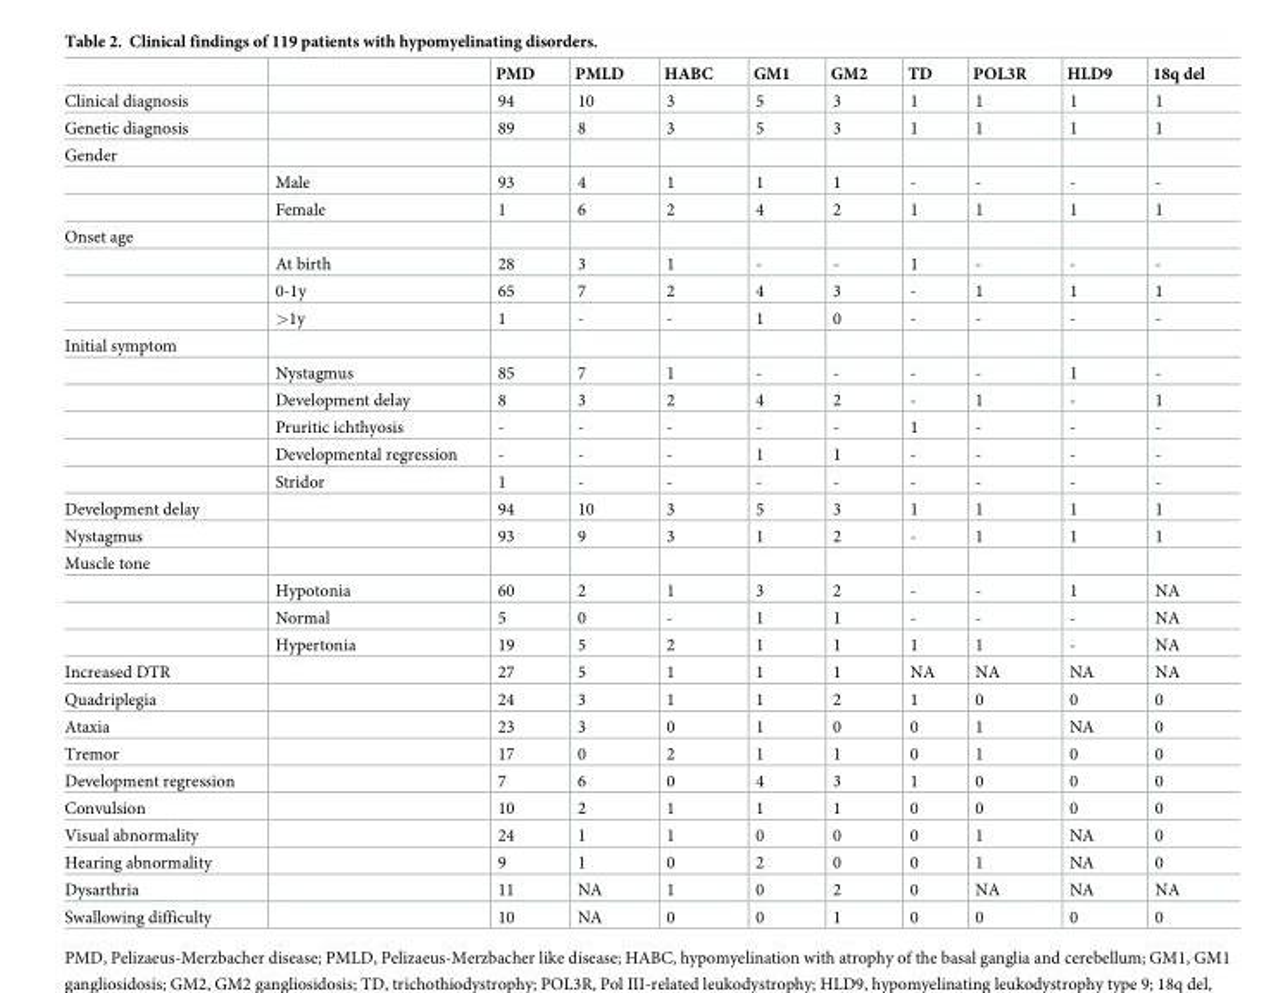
<table><thead><tr><td></td><td></td><td>PMD</td><td>PMLD</td><td>HABC</td><td>GM1</td><td>GM2</td><td>TD</td><td>POL3R</td><td>HLD9</td><td>18q del</td></tr></thead><tbody><tr><td>Clinical diagnosis</td><td></td><td>94</td><td>10</td><td>3</td><td>5</td><td>3</td><td>1</td><td>1</td><td>1</td><td>1</td></tr><tr><td>Genetic diagnosis</td><td></td><td>89</td><td>8</td><td>3</td><td>5</td><td>3</td><td>1</td><td>1</td><td>1</td><td>1</td></tr><tr><td colspan="11">Gender</td></tr><tr><td></td><td>Male</td><td>93</td><td>4</td><td>1</td><td>1</td><td>1</td><td>-</td><td>-</td><td>-</td><td>-</td></tr><tr><td></td><td>Female</td><td>1</td><td>6</td><td>2</td><td>4</td><td>2</td><td>1</td><td>1</td><td>1</td><td>1</td></tr><tr><td colspan="11">Onset age</td></tr><tr><td></td><td>At birth</td><td>28</td><td>3</td><td>1</td><td>-</td><td>-</td><td>1</td><td>-</td><td>-</td><td>-</td></tr><tr><td></td><td>0-1y</td><td>65</td><td>7</td><td>2</td><td>4</td><td>3</td><td>-</td><td>1</td><td>1</td><td>1</td></tr><tr><td></td><td>&gt;1y</td><td>1</td><td>-</td><td>-</td><td>1</td><td>0</td><td>-</td><td>-</td><td>-</td><td>-</td></tr><tr><td colspan="11">Initial symptom</td></tr><tr><td></td><td>Nystagmus</td><td>85</td><td>7</td><td>1</td><td>-</td><td>-</td><td>-</td><td>-</td><td>1</td><td>-</td></tr><tr><td></td><td>Development delay</td><td>8</td><td>3</td><td>2</td><td>4</td><td>2</td><td>-</td><td>1</td><td>-</td><td>1</td></tr><tr><td></td><td>Pruritic ichthyosis</td><td>-</td><td>-</td><td>-</td><td>-</td><td>-</td><td>1</td><td>-</td><td>-</td><td>-</td></tr><tr><td></td><td>Developmental regression</td><td>-</td><td>-</td><td>-</td><td>1</td><td>1</td><td>-</td><td>-</td><td>-</td><td>-</td></tr><tr><td></td><td>Stridor</td><td>1</td><td>-</td><td>-</td><td>-</td><td>-</td><td>-</td><td>-</td><td>-</td><td>-</td></tr><tr><td>Development delay</td><td></td><td>94</td><td>10</td><td>3</td><td>5</td><td>3</td><td>1</td><td>1</td><td>1</td><td>1</td></tr><tr><td>Nystagmus</td><td></td><td>93</td><td>9</td><td>3</td><td>1</td><td>2</td><td>-</td><td>1</td><td>1</td><td>1</td></tr><tr><td colspan="11">Muscle tone</td></tr><tr><td></td><td>Hypotonia</td><td>60</td><td>2</td><td>1</td><td>3</td><td>2</td><td>-</td><td>-</td><td>1</td><td>NA</td></tr><tr><td></td><td>Normal</td><td>5</td><td>0</td><td>-</td><td>1</td><td>1</td><td>-</td><td>-</td><td>-</td><td>NA</td></tr><tr><td></td><td>Hypertonia</td><td>19</td><td>5</td><td>2</td><td>1</td><td>1</td><td>1</td><td>1</td><td>-</td><td>NA</td></tr><tr><td>Increased DTR</td><td></td><td>27</td><td>5</td><td>1</td><td>1</td><td>1</td><td>NA</td><td>NA</td><td>NA</td><td>NA</td></tr><tr><td>Quadriplegia</td><td></td><td>24</td><td>3</td><td>1</td><td>1</td><td>2</td><td>1</td><td>0</td><td>0</td><td>0</td></tr><tr><td>Ataxia</td><td></td><td>23</td><td>3</td><td>0</td><td>1</td><td>0</td><td>0</td><td>1</td><td>NA</td><td>0</td></tr><tr><td>Tremor</td><td></td><td>17</td><td>0</td><td>2</td><td>1</td><td>1</td><td>0</td><td>1</td><td>0</td><td>0</td></tr><tr><td>Development regression</td><td></td><td>7</td><td>6</td><td>0</td><td>4</td><td>3</td><td>1</td><td>0</td><td>0</td><td>0</td></tr><tr><td>Convulsion</td><td></td><td>10</td><td>2</td><td>1</td><td>1</td><td>1</td><td>0</td><td>0</td><td>0</td><td>0</td></tr><tr><td>Visual abnormality</td><td></td><td>24</td><td>1</td><td>1</td><td>0</td><td>0</td><td>0</td><td>1</td><td>NA</td><td>0</td></tr><tr><td>Hearing abnormality</td><td></td><td>9</td><td>1</td><td>0</td><td>2</td><td>0</td><td>0</td><td>1</td><td>NA</td><td>0</td></tr><tr><td>Dysarthria</td><td></td><td>11</td><td>NA</td><td>1</td><td>0</td><td>2</td><td>0</td><td>NA</td><td>NA</td><td>NA</td></tr><tr><td>Swallowing difficulty</td><td></td><td>10</td><td>NA</td><td>0</td><td>0</td><td>1</td><td>0</td><td>0</td><td>0</td><td>0</td></tr></tbody></table>